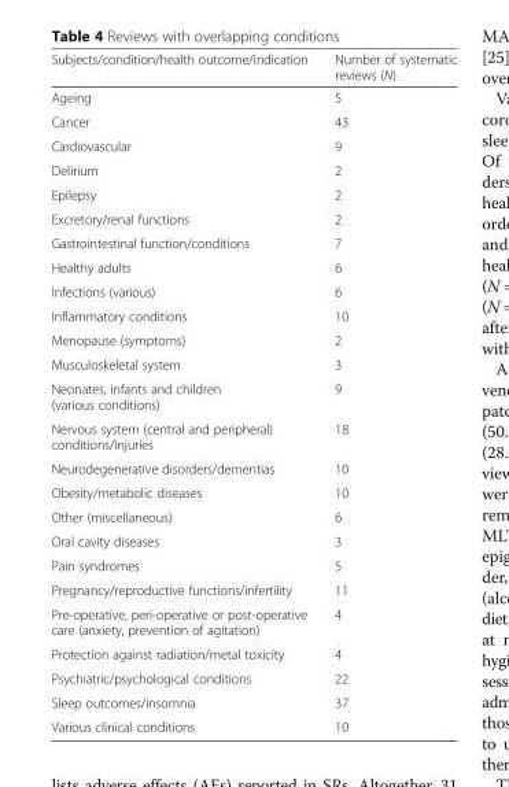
<table><thead><tr><td>Subjects/condition/health outcome/indication</td><td>Number of systematic reviews (N)</td></tr></thead><tbody><tr><td>Ageing</td><td>5</td></tr><tr><td>Cancer</td><td>43</td></tr><tr><td>Cardiovascular</td><td>9</td></tr><tr><td>Delirium</td><td>2</td></tr><tr><td>Epilepsy</td><td>2</td></tr><tr><td>Excretory/renal functions</td><td>2</td></tr><tr><td>Gastrointestinal function/conditions</td><td>7</td></tr><tr><td>Healthy adults</td><td>6</td></tr><tr><td>Infections (various)</td><td>6</td></tr><tr><td>Inflammatory conditions</td><td>10</td></tr><tr><td>Menopause (symptoms)</td><td>2</td></tr><tr><td>Musculoskeletal system</td><td>3</td></tr><tr><td>Neonates, infants and children (various conditions)</td><td>9</td></tr><tr><td>Nervous system (central and peripheral) conditions/injuries</td><td>18</td></tr><tr><td>Neurodegenerative disorders/dementias</td><td>10</td></tr><tr><td>Obesity/metabolic diseases</td><td>10</td></tr><tr><td>Other (miscellaneous)</td><td>6</td></tr><tr><td>Oral cavity diseases</td><td>3</td></tr><tr><td>Pain syndromes</td><td>5</td></tr><tr><td>Pregnancy/reproductive functions/infertility</td><td>11</td></tr><tr><td>Pre-operative, peri-operative or post-operative care (anxiety, prevention of agitation)</td><td>4</td></tr><tr><td>Protection against radiation/metal toxicity</td><td>4</td></tr><tr><td>Psychiatric/psychological conditions</td><td>22</td></tr><tr><td>Sleep outcomes/insomnia</td><td>37</td></tr><tr><td>Various clinical conditions</td><td>10</td></tr></tbody></table>